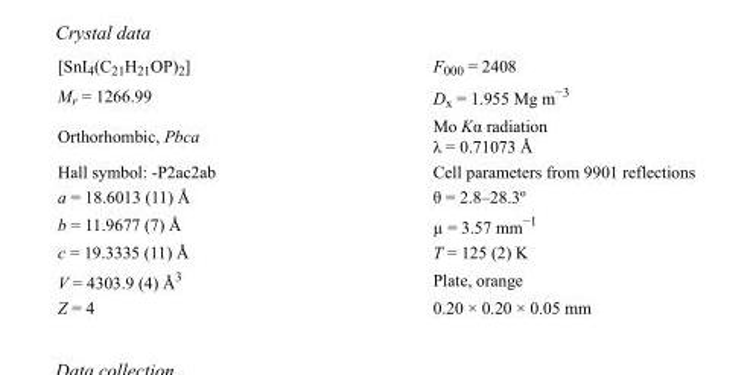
<table><tbody><tr><td>[SnI<sub>4</sub>(C<sub>21</sub>H<sub>21</sub>OP)<sub>2</sub>]</td><td>F<sub>000</sub> = 2408</td></tr><tr><td>M<sub>r</sub> = 1266.99</td><td>D<sub>x</sub> = 1.955 Mg m<sup>−3</sup></td></tr><tr><td>Orthorhombic, Pbca</td><td>Mo Kα radiation λ = 0.71073 Å</td></tr><tr><td>Hall symbol: -P2ac2ab</td><td>Cell parameters from 9901 reflections</td></tr><tr><td>a = 18.6013 (11) Å</td><td>θ = 2.8–28.3º</td></tr><tr><td>b = 11.9677 (7) Å</td><td>µ = 3.57 mm<sup>−1</sup></td></tr><tr><td>c = 19.3335 (11) Å</td><td>T = 125 (2) K</td></tr><tr><td>V = 4303.9 (4) Å<sup>3</sup></td><td>Plate, orange</td></tr><tr><td>Z = 4</td><td>0.20 × 0.20 × 0.05 mm</td></tr></tbody></table>